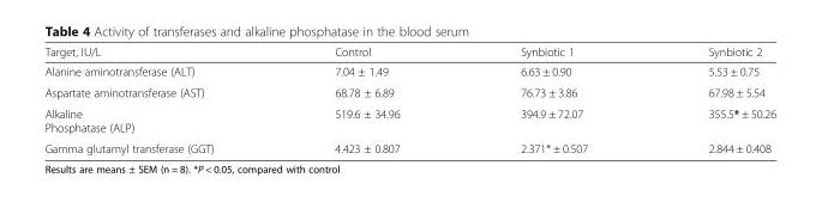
<table><thead><tr><td>Target, IU/L</td><td>Control</td><td>Synbiotic 1</td><td>Synbiotic 2</td></tr></thead><tbody><tr><td>Alanine aminotransferase (ALT)</td><td>7.04 ± 1.49</td><td>6.63 ± 0.90</td><td>5.53 ± 0.75</td></tr><tr><td>Aspartate aminotransferase (AST)</td><td>68.78 ± 6.89</td><td>76.73 ± 3.86</td><td>67.98 ± 5.54</td></tr><tr><td>Alkaline Phosphatase (ALP)</td><td>519.6 ± 34.96</td><td>394.9 ± 72.07</td><td>355.5* ± 50.26</td></tr><tr><td>Gamma glutamyl transferase (GGT)</td><td>4.423 ± 0.807</td><td>2.371* ± 0.507</td><td>2.844 ± 0.408</td></tr></tbody></table>